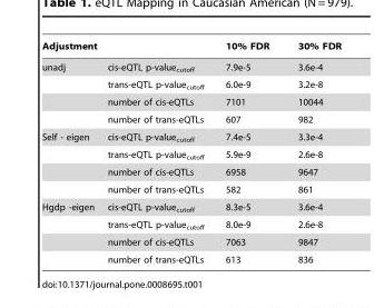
<table><thead><tr><td>Adjustment</td><td></td><td>10% FDR</td><td>30% FDR</td></tr></thead><tbody><tr><td rowspan="4">unadj</td><td>cis-eQTL p-value<sub>cutoff</sub></td><td>7.9e-5</td><td>3.6e-4</td></tr><tr><td>trans-eQTL p-value<sub>cutoff</sub></td><td>6.0e-9</td><td>3.2e-8</td></tr><tr><td>number of cis-eQTLs</td><td>7101</td><td>10044</td></tr><tr><td>number of trans-eQTLs</td><td>607</td><td>982</td></tr><tr><td rowspan="4">Self - eigen</td><td>cis-eQTL p-value<sub>cutoff</sub></td><td>7.4e-5</td><td>3.3e-4</td></tr><tr><td>trans-eQTL p-value<sub>cutoff</sub></td><td>5.9e-9</td><td>2.6e-8</td></tr><tr><td>number of cis-eQTLs</td><td>6958</td><td>9647</td></tr><tr><td>number of trans-eQTLs</td><td>582</td><td>861</td></tr><tr><td rowspan="4">Hgdp -eigen</td><td>cis-eQTL p-value<sub>cutoff</sub></td><td>8.3e-5</td><td>3.6e-4</td></tr><tr><td>trans-eQTL p-value<sub>cutoff</sub></td><td>8.0e-9</td><td>2.6e-8</td></tr><tr><td>number of cis-eQTLs</td><td>7063</td><td>9847</td></tr><tr><td>number of trans-eQTLs</td><td>613</td><td>836</td></tr></tbody></table>